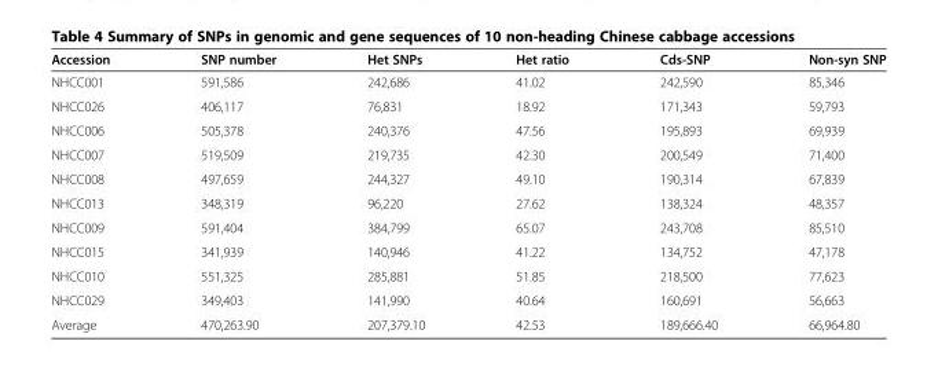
<table><thead><tr><td>Accession</td><td>SNP number</td><td>Het SNPs</td><td>Het ratio</td><td>Cds-SNP</td><td>Non-syn SNP</td></tr></thead><tbody><tr><td>NHCC001</td><td>591,586</td><td>242,686</td><td>41.02</td><td>242,590</td><td>85,346</td></tr><tr><td>NHCC026</td><td>406,117</td><td>76,831</td><td>18.92</td><td>171,343</td><td>59,793</td></tr><tr><td>NHCC006</td><td>505,378</td><td>240,376</td><td>47.56</td><td>195,893</td><td>69,939</td></tr><tr><td>NHCC007</td><td>519,509</td><td>219,735</td><td>42.30</td><td>200,549</td><td>71,400</td></tr><tr><td>NHCC008</td><td>497,659</td><td>244,327</td><td>49.10</td><td>190,314</td><td>67,839</td></tr><tr><td>NHCC013</td><td>348,319</td><td>96,220</td><td>27.62</td><td>138,324</td><td>48,357</td></tr><tr><td>NHCC009</td><td>591,404</td><td>384,799</td><td>65.07</td><td>243,708</td><td>85,510</td></tr><tr><td>NHCC015</td><td>341,939</td><td>140,946</td><td>41.22</td><td>134,752</td><td>47,178</td></tr><tr><td>NHCC010</td><td>551,325</td><td>285,881</td><td>51.85</td><td>218,500</td><td>77,623</td></tr><tr><td>NHCC029</td><td>349,403</td><td>141,990</td><td>40.64</td><td>160,691</td><td>56,663</td></tr><tr><td>Average</td><td>470,263.90</td><td>207,379.10</td><td>42.53</td><td>189,666.40</td><td>66,964.80</td></tr></tbody></table>